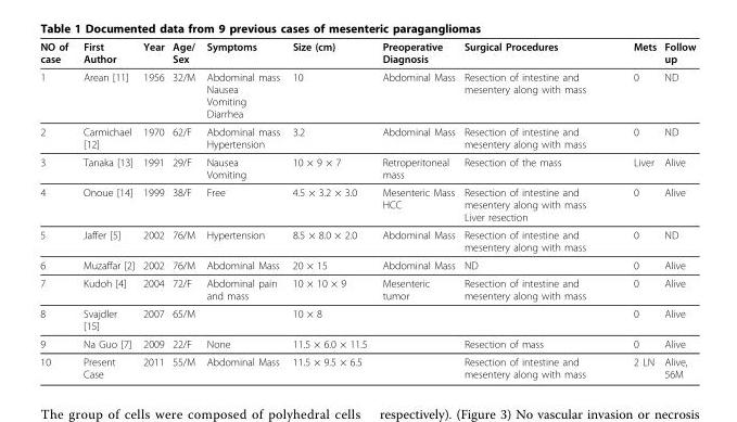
<table><thead><tr><td>NO of case</td><td>First Author</td><td>Year</td><td>Age/ Sex</td><td>Symptoms</td><td>Size (cm)</td><td>Preoperative Diagnosis</td><td>Surgical Procedures</td><td>Mets</td><td>Follow up</td></tr></thead><tbody><tr><td>1</td><td>Arean [11]</td><td>1956</td><td>32/M</td><td>Abdominal mass Nausea Vomiting Diarrhea</td><td>10</td><td>Abdominal Mass</td><td>Resection of intestine and mesentery along with mass</td><td>0</td><td>ND</td></tr><tr><td>2</td><td>Carmichael [12]</td><td>1970</td><td>62/F</td><td>Abdominal mass Hypertension</td><td>3.2</td><td>Abdominal Mass</td><td>Resection of intestine and mesentery along with mass</td><td>0</td><td>ND</td></tr><tr><td>3</td><td>Tanaka [13]</td><td>1991</td><td>29/F</td><td>Nausea Vomiting</td><td>10 × 9 × 7</td><td>Retroperitoneal mass</td><td>Resection of the mass</td><td>Liver</td><td>Alive</td></tr><tr><td>4</td><td>Onoue [14]</td><td>1999</td><td>38/F</td><td>Free</td><td>4.5 × 3.2 × 3.0</td><td>Mesenteric Mass HCC</td><td>Resection of intestine and mesentery along with mass Liver resection</td><td>0</td><td>Alive</td></tr><tr><td>5</td><td>Jaffer [5]</td><td>2002</td><td>76/M</td><td>Hypertension</td><td>8.5 × 8.0 × 2.0</td><td>Abdominal Mass</td><td>Resection of intestine and mesentery along with mass</td><td>0</td><td>ND</td></tr><tr><td>6</td><td>Muzaffar [2]</td><td>2002</td><td>76/M</td><td>Abdominal Mass</td><td>20 × 15</td><td>Abdominal Mass</td><td>ND</td><td>0</td><td>Alive</td></tr><tr><td>7</td><td>Kudoh [4]</td><td>2004</td><td>72/F</td><td>Abdominal pain and mass</td><td>10 × 10 × 9</td><td>Mesenteric tumor</td><td>Resection of intestine and mesentery along with mass</td><td>0</td><td>Alive</td></tr><tr><td>8</td><td>Svajdler [15]</td><td>2007</td><td>65/M</td><td></td><td>10 × 8</td><td></td><td></td><td>0</td><td>Alive</td></tr><tr><td>9</td><td>Na Guo [7]</td><td>2009</td><td>22/F</td><td>None</td><td>11.5 × 6.0 × 11.5</td><td></td><td>Resection of mass</td><td>0</td><td>Alive</td></tr><tr><td>10</td><td>Present Case</td><td>2011</td><td>55/M</td><td>Abdominal Mass</td><td>11.5 × 9.5 × 6.5</td><td></td><td>Resection of intestine and mesentery along with mass</td><td>2 LN</td><td>Alive, 56M</td></tr></tbody></table>